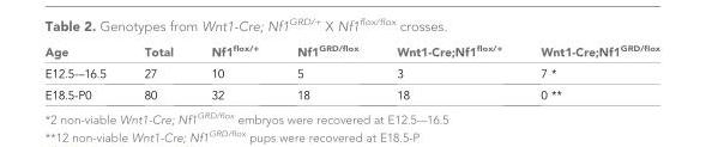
<table><thead><tr><td>Age</td><td>Total</td><td>Nf1<sup>flox/+</sup></td><td>Nf1<sup>GRD/flox</sup></td><td>Wnt1-Cre;Nf1<sup>flox/+</sup></td><td>Wnt1-Cre;Nf1<sup>GRD/flox</sup></td></tr></thead><tbody><tr><td>E12.5-–16.5</td><td>27</td><td>10</td><td>5</td><td>3</td><td>7 *</td></tr><tr><td>E18.5-P0</td><td>80</td><td>32</td><td>18</td><td>18</td><td>0 **</td></tr></tbody></table>